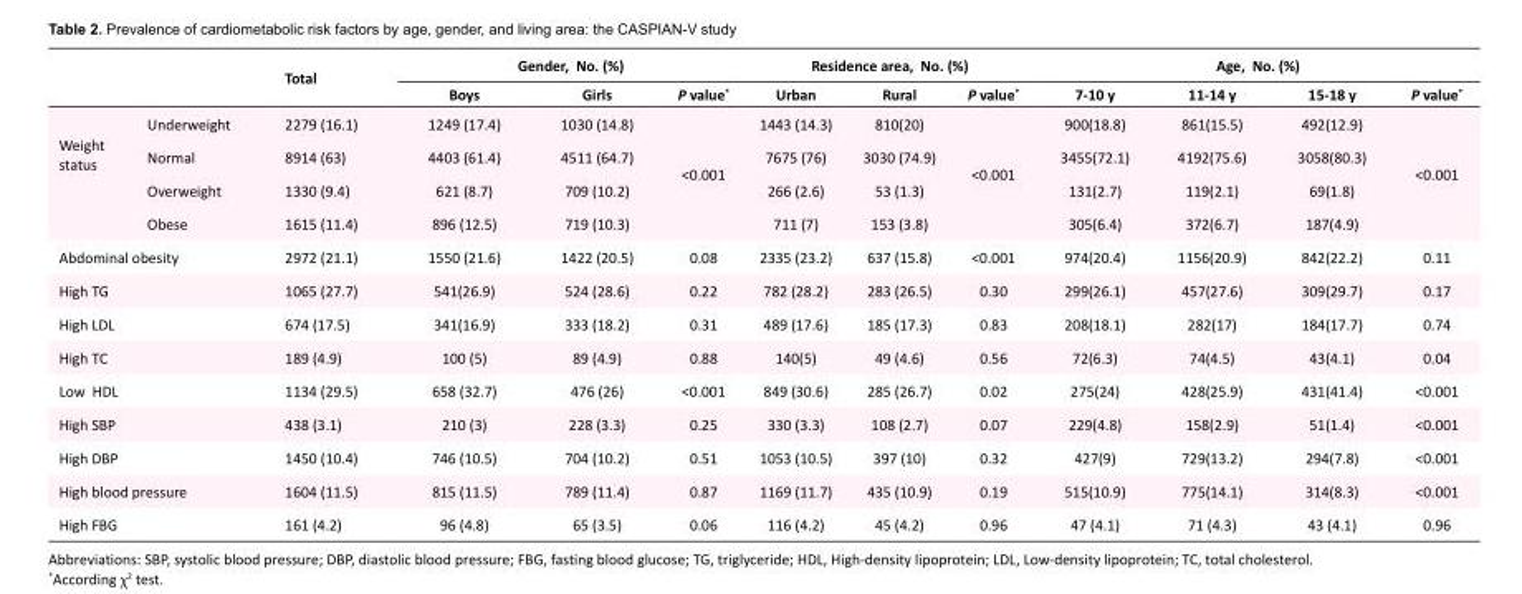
<table><thead><tr><td rowspan="2"></td><td rowspan="2"></td><td rowspan="2">Total</td><td colspan="3">Gender, No. (%)</td><td colspan="3">Residence area, No. (%)</td><td colspan="4">Age, No. (%)</td></tr><tr><td>Boys</td><td>Girls</td><td>P value*</td><td>Urban</td><td>Rural</td><td>P value*</td><td>7-10 y</td><td>11-14 y</td><td>15-18 y</td><td>P value*</td></tr></thead><tbody><tr><td rowspan="4">Weight status</td><td>Underweight</td><td>2279 (16.1)</td><td>1249 (17.4)</td><td>1030 (14.8)</td><td rowspan="4">&lt;0.001</td><td>1443 (14.3)</td><td>810(20)</td><td rowspan="4">&lt;0.001</td><td>900(18.8)</td><td>861(15.5)</td><td>492(12.9)</td><td rowspan="4">&lt;0.001</td></tr><tr><td>Normal</td><td>8914 (63)</td><td>4403 (61.4)</td><td>4511 (64.7)</td><td>7675 (76)</td><td>3030 (74.9)</td><td>3455(72.1)</td><td>4192(75.6)</td><td>3058(80.3)</td></tr><tr><td>Overweight</td><td>1330 (9.4)</td><td>621 (8.7)</td><td>709 (10.2)</td><td>266 (2.6)</td><td>53 (1.3)</td><td>131(2.7)</td><td>119(2.1)</td><td>69(1.8)</td></tr><tr><td>Obese</td><td>1615 (11.4)</td><td>896 (12.5)</td><td>719 (10.3)</td><td>711 (7)</td><td>153 (3.8)</td><td>305(6.4)</td><td>372(6.7)</td><td>187(4.9)</td></tr><tr><td colspan="2">Abdominal obesity</td><td>2972 (21.1)</td><td>1550 (21.6)</td><td>1422 (20.5)</td><td>0.08</td><td>2335 (23.2)</td><td>637 (15.8)</td><td>&lt;0.001</td><td>974(20.4)</td><td>1156(20.9)</td><td>842(22.2)</td><td>0.11</td></tr><tr><td colspan="2">High TG</td><td>1065 (27.7)</td><td>541(26.9)</td><td>524 (28.6)</td><td>0.22</td><td>782 (28.2)</td><td>283 (26.5)</td><td>0.30</td><td>299(26.1)</td><td>457(27.6)</td><td>309(29.7)</td><td>0.17</td></tr><tr><td colspan="2">High LDL</td><td>674 (17.5)</td><td>341(16.9)</td><td>333 (18.2)</td><td>0.31</td><td>489 (17.6)</td><td>185 (17.3)</td><td>0.83</td><td>208(18.1)</td><td>282(17)</td><td>184(17.7)</td><td>0.74</td></tr><tr><td colspan="2">High TC</td><td>189 (4.9)</td><td>100 (5)</td><td>89 (4.9)</td><td>0.88</td><td>140(5)</td><td>49 (4.6)</td><td>0.56</td><td>72(6.3)</td><td>74(4.5)</td><td>43(4.1)</td><td>0.04</td></tr><tr><td colspan="2">Low HDL</td><td>1134 (29.5)</td><td>658 (32.7)</td><td>476 (26)</td><td>&lt;0.001</td><td>849 (30.6)</td><td>285 (26.7)</td><td>0.02</td><td>275(24)</td><td>428(25.9)</td><td>431(41.4)</td><td>&lt;0.001</td></tr><tr><td colspan="2">High SBP</td><td>438 (3.1)</td><td>210 (3)</td><td>228 (3.3)</td><td>0.25</td><td>330 (3.3)</td><td>108 (2.7)</td><td>0.07</td><td>229(4.8)</td><td>158(2.9)</td><td>51(1.4)</td><td>&lt;0.001</td></tr><tr><td colspan="2">High DBP</td><td>1450 (10.4)</td><td>746 (10.5)</td><td>704 (10.2)</td><td>0.51</td><td>1053 (10.5)</td><td>397 (10)</td><td>0.32</td><td>427(9)</td><td>729(13.2)</td><td>294(7.8)</td><td>&lt;0.001</td></tr><tr><td colspan="2">High blood pressure</td><td>1604 (11.5)</td><td>815 (11.5)</td><td>789 (11.4)</td><td>0.87</td><td>1169 (11.7)</td><td>435 (10.9)</td><td>0.19</td><td>515(10.9)</td><td>775(14.1)</td><td>314(8.3)</td><td>&lt;0.001</td></tr><tr><td colspan="2">High FBG</td><td>161 (4.2)</td><td>96 (4.8)</td><td>65 (3.5)</td><td>0.06</td><td>116 (4.2)</td><td>45 (4.2)</td><td>0.96</td><td>47 (4.1)</td><td>71 (4.3)</td><td>43 (4.1)</td><td>0.96</td></tr></tbody></table>